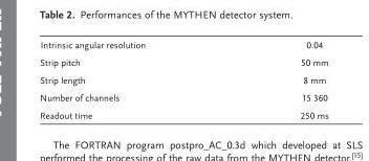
<table><tbody><tr><td>Intrinsic angular resolution</td><td>0.04</td></tr><tr><td>Strip pitch</td><td>50 mm</td></tr><tr><td>Strip length</td><td>8 mm</td></tr><tr><td>Number of channels</td><td>15 360</td></tr><tr><td>Readout time</td><td>250 ms</td></tr></tbody></table>